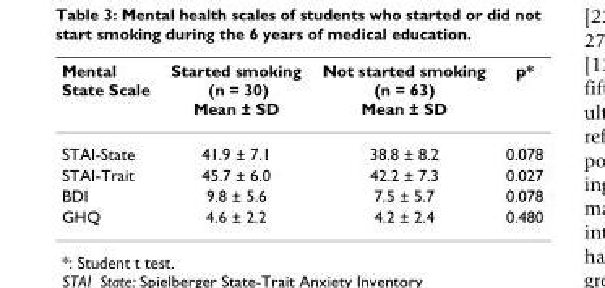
<table><thead><tr><td>Mental State Scale</td><td>Started smoking (n = 30) Mean ± SD</td><td>Not started smoking (n = 63) Mean ± SD</td><td>p*</td></tr></thead><tbody><tr><td>STAI-State</td><td>41.9 ± 7.1</td><td>38.8 ± 8.2</td><td>0.078</td></tr><tr><td>STAI-Trait</td><td>45.7 ± 6.0</td><td>42.2 ± 7.3</td><td>0.027</td></tr><tr><td>BDI</td><td>9.8 ± 5.6</td><td>7.5 ± 5.7</td><td>0.078</td></tr><tr><td>GHQ</td><td>4.6 ± 2.2</td><td>4.2 ± 2.4</td><td>0.480</td></tr></tbody></table>